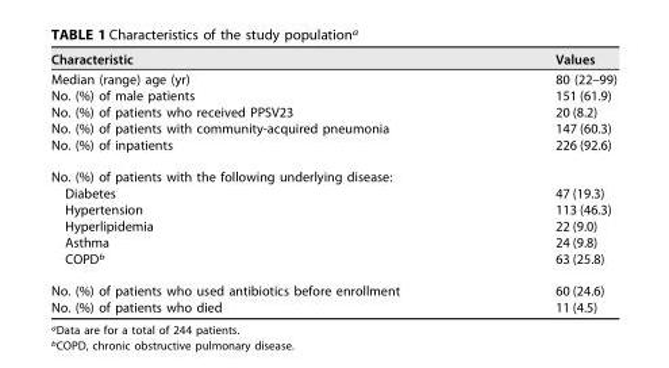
<table><thead><tr><td>Characteristic</td><td>Values</td></tr></thead><tbody><tr><td>Median (range) age (yr)</td><td>80 (22–99)</td></tr><tr><td>No. (%) of male patients</td><td>151 (61.9)</td></tr><tr><td>No. (%) of patients who received PPSV23</td><td>20 (8.2)</td></tr><tr><td>No. (%) of patients with community-acquired pneumonia</td><td>147 (60.3)</td></tr><tr><td>No. (%) of inpatients</td><td>226 (92.6)</td></tr><tr><td colspan="2">No. (%) of patients with the following underlying disease:</td></tr><tr><td>Diabetes</td><td>47 (19.3)</td></tr><tr><td>Hypertension</td><td>113 (46.3)</td></tr><tr><td>Hyperlipidemia</td><td>22 (9.0)</td></tr><tr><td>Asthma</td><td>24 (9.8)</td></tr><tr><td>COPD<sup>b</sup></td><td>63 (25.8)</td></tr><tr><td>No. (%) of patients who used antibiotics before enrollment</td><td>60 (24.6)</td></tr><tr><td>No. (%) of patients who died</td><td>11 (4.5)</td></tr></tbody></table>